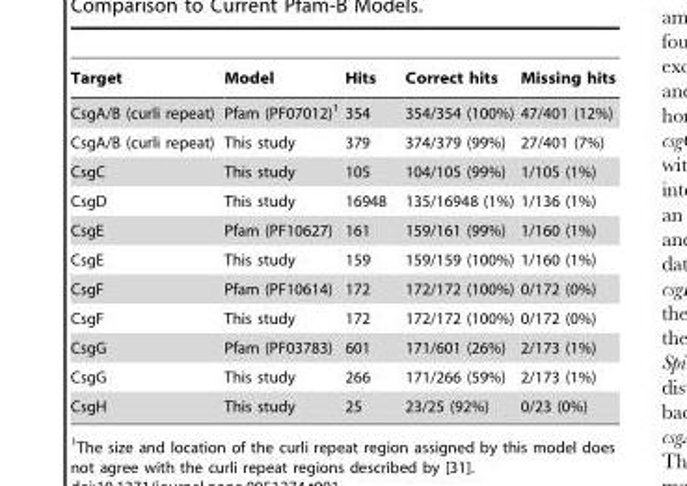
<table><thead><tr><td>Target</td><td>Model</td><td>Hits</td><td>Correct hits</td><td>Missing hits</td></tr></thead><tbody><tr><td>CsgA/B (curli repeat)</td><td>Pfam (PF07012)<sup>1</sup></td><td>354</td><td>354/354 (100%)</td><td>47/401 (12%)</td></tr><tr><td>CsgA/B (curli repeat)</td><td>This study</td><td>379</td><td>374/379 (99%)</td><td>27/401 (7%)</td></tr><tr><td>CsgC</td><td>This study</td><td>105</td><td>104/105 (99%)</td><td>1/105 (1%)</td></tr><tr><td>CsgD</td><td>This study</td><td>16948</td><td>135/16948 (1%)</td><td>1/136 (1%)</td></tr><tr><td>CsgE</td><td>Pfam (PF10627)</td><td>161</td><td>159/161 (99%)</td><td>1/160 (1%)</td></tr><tr><td>CsgE</td><td>This study</td><td>159</td><td>159/159 (100%)</td><td>1/160 (1%)</td></tr><tr><td>CsgF</td><td>Pfam (PF10614)</td><td>172</td><td>172/172 (100%)</td><td>0/172 (0%)</td></tr><tr><td>CsgF</td><td>This study</td><td>172</td><td>172/172 (100%)</td><td>0/172 (0%)</td></tr><tr><td>CsgG</td><td>Pfam (PF03783)</td><td>601</td><td>171/601 (26%)</td><td>2/173 (1%)</td></tr><tr><td>CsgG</td><td>This study</td><td>266</td><td>171/266 (59%)</td><td>2/173 (1%)</td></tr><tr><td>CsgH</td><td>This study</td><td>25</td><td>23/25 (92%)</td><td>0/23 (0%)</td></tr></tbody></table>